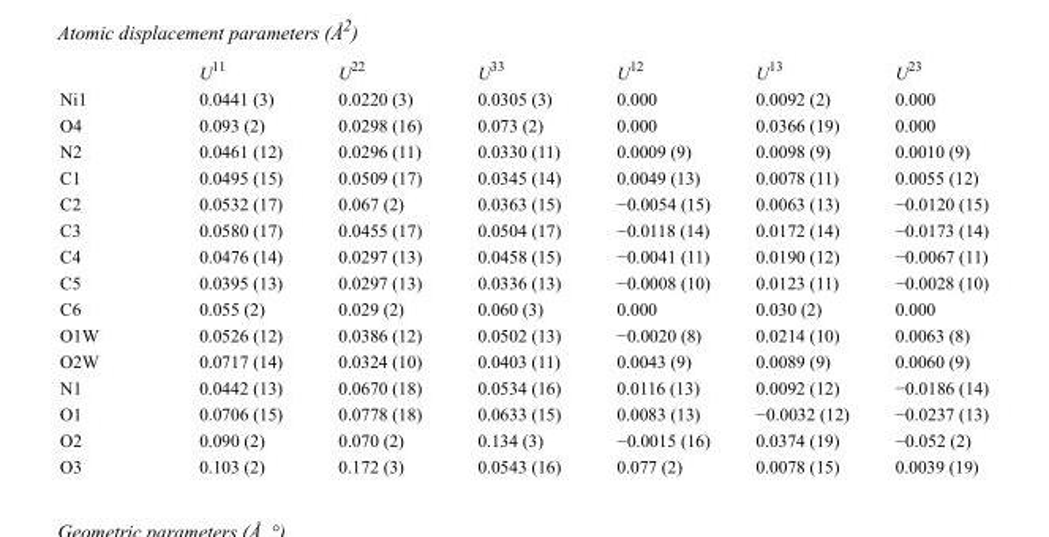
<table><thead><tr><td></td><td>U<sup>11</sup></td><td>U<sup>22</sup></td><td>U<sup>33</sup></td><td>U<sup>12</sup></td><td>U<sup>13</sup></td><td>U<sup>23</sup></td></tr></thead><tbody><tr><td>Ni1</td><td>0.0441 (3)</td><td>0.0220 (3)</td><td>0.0305 (3)</td><td>0.000</td><td>0.0092 (2)</td><td>0.000</td></tr><tr><td>O4</td><td>0.093 (2)</td><td>0.0298 (16)</td><td>0.073 (2)</td><td>0.000</td><td>0.0366 (19)</td><td>0.000</td></tr><tr><td>N2</td><td>0.0461 (12)</td><td>0.0296 (11)</td><td>0.0330 (11)</td><td>0.0009 (9)</td><td>0.0098 (9)</td><td>0.0010 (9)</td></tr><tr><td>C1</td><td>0.0495 (15)</td><td>0.0509 (17)</td><td>0.0345 (14)</td><td>0.0049 (13)</td><td>0.0078 (11)</td><td>0.0055 (12)</td></tr><tr><td>C2</td><td>0.0532 (17)</td><td>0.067 (2)</td><td>0.0363 (15)</td><td>−0.0054 (15)</td><td>0.0063 (13)</td><td>−0.0120 (15)</td></tr><tr><td>C3</td><td>0.0580 (17)</td><td>0.0455 (17)</td><td>0.0504 (17)</td><td>−0.0118 (14)</td><td>0.0172 (14)</td><td>−0.0173 (14)</td></tr><tr><td>C4</td><td>0.0476 (14)</td><td>0.0297 (13)</td><td>0.0458 (15)</td><td>−0.0041 (11)</td><td>0.0190 (12)</td><td>−0.0067 (11)</td></tr><tr><td>C5</td><td>0.0395 (13)</td><td>0.0297 (13)</td><td>0.0336 (13)</td><td>−0.0008 (10)</td><td>0.0123 (11)</td><td>−0.0028 (10)</td></tr><tr><td>C6</td><td>0.055 (2)</td><td>0.029 (2)</td><td>0.060 (3)</td><td>0.000</td><td>0.030 (2)</td><td>0.000</td></tr><tr><td>O1W</td><td>0.0526 (12)</td><td>0.0386 (12)</td><td>0.0502 (13)</td><td>−0.0020 (8)</td><td>0.0214 (10)</td><td>0.0063 (8)</td></tr><tr><td>O2W</td><td>0.0717 (14)</td><td>0.0324 (10)</td><td>0.0403 (11)</td><td>0.0043 (9)</td><td>0.0089 (9)</td><td>0.0060 (9)</td></tr><tr><td>N1</td><td>0.0442 (13)</td><td>0.0670 (18)</td><td>0.0534 (16)</td><td>0.0116 (13)</td><td>0.0092 (12)</td><td>−0.0186 (14)</td></tr><tr><td>O1</td><td>0.0706 (15)</td><td>0.0778 (18)</td><td>0.0633 (15)</td><td>0.0083 (13)</td><td>−0.0032 (12)</td><td>−0.0237 (13)</td></tr><tr><td>O2</td><td>0.090 (2)</td><td>0.070 (2)</td><td>0.134 (3)</td><td>−0.0015 (16)</td><td>0.0374 (19)</td><td>−0.052 (2)</td></tr><tr><td>O3</td><td>0.103 (2)</td><td>0.172 (3)</td><td>0.0543 (16)</td><td>0.077 (2)</td><td>0.0078 (15)</td><td>0.0039 (19)</td></tr></tbody></table>